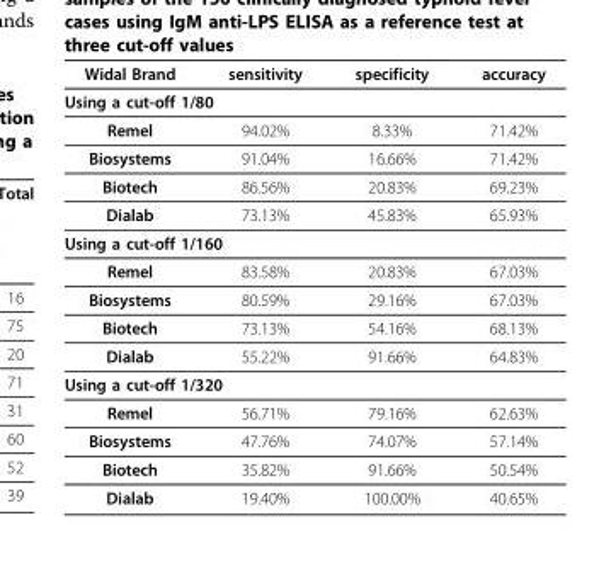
<table><thead><tr><td>Widal Brand</td><td>sensitivity</td><td>specificity</td><td>accuracy</td></tr></thead><tbody><tr><td colspan="4">Using a cut-off 1/80</td></tr><tr><td>Remel</td><td>94.02%</td><td>8.33%</td><td>71.42%</td></tr><tr><td>Biosystems</td><td>91.04%</td><td>16.66%</td><td>71.42%</td></tr><tr><td>Biotech</td><td>86.56%</td><td>20.83%</td><td>69.23%</td></tr><tr><td>Dialab</td><td>73.13%</td><td>45.83%</td><td>65.93%</td></tr><tr><td colspan="4">Using a cut-off 1/160</td></tr><tr><td>Remel</td><td>83.58%</td><td>20.83%</td><td>67.03%</td></tr><tr><td>Biosystems</td><td>80.59%</td><td>29.16%</td><td>67.03%</td></tr><tr><td>Biotech</td><td>73.13%</td><td>54.16%</td><td>68.13%</td></tr><tr><td>Dialab</td><td>55.22%</td><td>91.66%</td><td>64.83%</td></tr><tr><td colspan="4">Using a cut-off 1/320</td></tr><tr><td>Remel</td><td>56.71%</td><td>79.16%</td><td>62.63%</td></tr><tr><td>Biosystems</td><td>47.76%</td><td>74.07%</td><td>57.14%</td></tr><tr><td>Biotech</td><td>35.82%</td><td>91.66%</td><td>50.54%</td></tr><tr><td>Dialab</td><td>19.40%</td><td>100.00%</td><td>40.65%</td></tr></tbody></table>